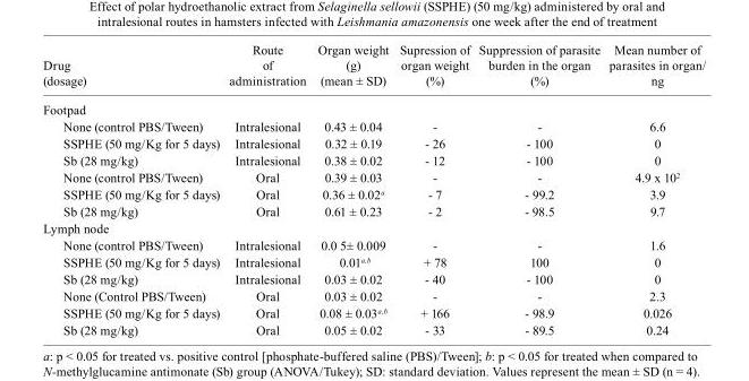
<table><thead><tr><td>Drug (dosage)</td><td>Route of administration</td><td>Organ weight (g) (mean ± SD)</td><td>Supression of organ weight (%)</td><td>Suppression of parasite burden in the organ (%)</td><td>Mean number of parasites in organ/ ng</td></tr></thead><tbody><tr><td colspan="6">Footpad</td></tr><tr><td>None (control PBS/Tween)</td><td>Intralesional</td><td>0.43 ± 0.04</td><td>-</td><td>-</td><td>6.6</td></tr><tr><td>SSPHE (50 mg/Kg for 5 days)</td><td>Intralesional</td><td>0.32 ± 0.19</td><td>- 26</td><td>- 100</td><td>0</td></tr><tr><td>Sb (28 mg/kg)</td><td>Intralesional</td><td>0.38 ± 0.02</td><td>- 12</td><td>- 100</td><td>0</td></tr><tr><td>None (control PBS/Tween)</td><td>Oral</td><td>0.39 ± 0.03</td><td>-</td><td>-</td><td>4.9 x 10<sup>2</sup></td></tr><tr><td>SSPHE (50 mg/Kg for 5 days)</td><td>Oral</td><td>0.36 ± 0.02<sup>a</sup></td><td>- 7</td><td>- 99.2</td><td>3.9</td></tr><tr><td>Sb (28 mg/kg)</td><td>Oral</td><td>0.61 ± 0.23</td><td>- 2</td><td>- 98.5</td><td>9.7</td></tr><tr><td colspan="6">Lymph node</td></tr><tr><td>None (control PBS/Tween)</td><td>Intralesional</td><td>0.0 5± 0.009</td><td>-</td><td>-</td><td>1.6</td></tr><tr><td>SSPHE (50 mg/Kg for 5 days)</td><td>Intralesional</td><td>0.01<sup>a,b</sup></td><td>+ 78</td><td>100</td><td>0</td></tr><tr><td>Sb (28 mg/kg)</td><td>Intralesional</td><td>0.03 ± 0.02</td><td>- 40</td><td>- 100</td><td>0</td></tr><tr><td>None (Control PBS/Tween)</td><td>Oral</td><td>0.03 ± 0.02</td><td>-</td><td>-</td><td>2.3</td></tr><tr><td>SSPHE (50 mg/Kg for 5 days)</td><td>Oral</td><td>0.08 ± 0.03<sup>a,b</sup></td><td>+ 166</td><td>- 98.9</td><td>0.026</td></tr><tr><td>Sb (28 mg/kg)</td><td>Oral</td><td>0.05 ± 0.02</td><td>- 33</td><td>- 89.5</td><td>0.24</td></tr></tbody></table>